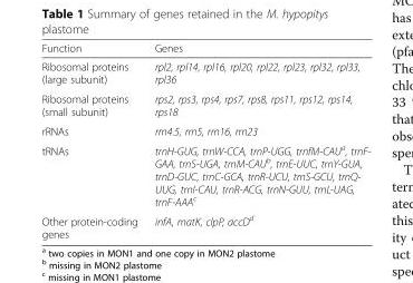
<table><thead><tr><td>Function</td><td>Genes</td></tr></thead><tbody><tr><td>Ribosomal proteins (large subunit)</td><td>rpl2, rpl14, rpl16, rpl20, rpl22, rpl23, rpl32, rpl33, rpl36</td></tr><tr><td>Ribosomal proteins (small subunit)</td><td>rps2, rps3, rps4, rps7, rps8, rps11, rps12, rps14, rps18</td></tr><tr><td>rRNAs</td><td>rrn4.5, rrn5, rrn16, rrn23</td></tr><tr><td>tRNAs</td><td>trnH-GUG, trnW-CCA, trnP-UGG, trnfM-CAU<sup>a</sup>, trnF- GAA, trnS-UGA, trnM-CAU<sup>b</sup>, trnE-UUC, trnY-GUA, trnD-GUC, trnC-GCA, trnR-UCU, trnS-GCU, trnQ- UUG, trnI-CAU, trnR-ACG, trnN-GUU, trnL-UAG, trnF-AAA<sup>c</sup></td></tr><tr><td>Other protein-coding genes</td><td>infA, matK, clpP, accD<sup>d</sup></td></tr></tbody></table>